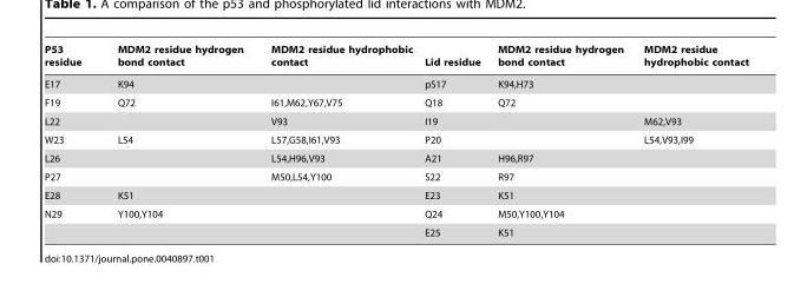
<table><thead><tr><td>P53 residue</td><td>MDM2 residue hydrogen bond contact</td><td>MDM2 residue hydrophobic contact</td><td>Lid residue</td><td>MDM2 residue hydrogen bond contact</td><td>MDM2 residue hydrophobic contact</td></tr></thead><tbody><tr><td>E17</td><td>K94</td><td></td><td>pS17</td><td>K94,H73</td><td></td></tr><tr><td>F19</td><td>Q72</td><td>I61,M62,Y67,V75</td><td>Q18</td><td>Q72</td><td></td></tr><tr><td>L22</td><td></td><td>V93</td><td>I19</td><td></td><td>M62,V93</td></tr><tr><td>W23</td><td>L54</td><td>L57,G58,I61,V93</td><td>P20</td><td></td><td>L54,V93,I99</td></tr><tr><td>L26</td><td></td><td>L54,H96,V93</td><td>A21</td><td>H96,R97</td><td></td></tr><tr><td>P27</td><td></td><td>M50,L54,Y100</td><td>S22</td><td>R97</td><td></td></tr><tr><td>E28</td><td>K51</td><td></td><td>E23</td><td>K51</td><td></td></tr><tr><td rowspan="2">N29</td><td>Y100,Y104</td><td></td><td>Q24</td><td>M50,Y100,Y104</td><td></td></tr><tr><td></td><td></td><td>E25</td><td>K51</td><td></td></tr></tbody></table>